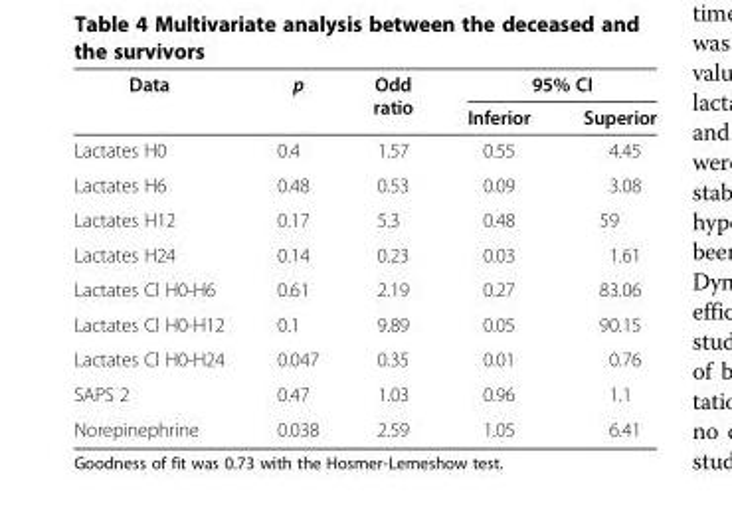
<table><thead><tr><td rowspan="2">Data</td><td rowspan="2">p</td><td rowspan="2">Odd ratio</td><td colspan="2">95% CI</td></tr><tr><td>Inferior</td><td>Superior</td></tr></thead><tbody><tr><td>Lactates H0</td><td>0.4</td><td>1.57</td><td>0.55</td><td>4.45</td></tr><tr><td>Lactates H6</td><td>0.48</td><td>0.53</td><td>0.09</td><td>3.08</td></tr><tr><td>Lactates H12</td><td>0.17</td><td>5.3</td><td>0.48</td><td>59</td></tr><tr><td>Lactates H24</td><td>0.14</td><td>0.23</td><td>0.03</td><td>1.61</td></tr><tr><td>Lactates Cl H0-H6</td><td>0.61</td><td>2.19</td><td>0.27</td><td>83.06</td></tr><tr><td>Lactates Cl H0-H12</td><td>0.1</td><td>9.89</td><td>0.05</td><td>90.15</td></tr><tr><td>Lactates Cl H0-H24</td><td>0.047</td><td>0.35</td><td>0.01</td><td>0.76</td></tr><tr><td>SAPS 2</td><td>0.47</td><td>1.03</td><td>0.96</td><td>1.1</td></tr><tr><td>Norepinephrine</td><td>0.038</td><td>2.59</td><td>1.05</td><td>6.41</td></tr></tbody></table>